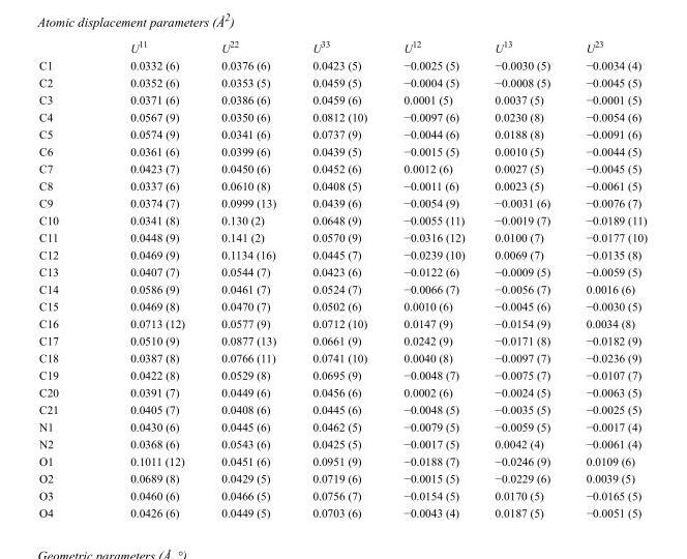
<table><thead><tr><td></td><td>U<sup>11</sup></td><td>U<sup>22</sup></td><td>U<sup>33</sup></td><td>U<sup>12</sup></td><td>U<sup>13</sup></td><td>U<sup>23</sup></td></tr></thead><tbody><tr><td>C1</td><td>0.0332 (6)</td><td>0.0376 (6)</td><td>0.0423 (5)</td><td>−0.0025 (5)</td><td>−0.0030 (5)</td><td>−0.0034 (4)</td></tr><tr><td>C2</td><td>0.0352 (6)</td><td>0.0353 (5)</td><td>0.0459 (5)</td><td>−0.0004 (5)</td><td>−0.0008 (5)</td><td>−0.0045 (5)</td></tr><tr><td>C3</td><td>0.0371 (6)</td><td>0.0386 (6)</td><td>0.0459 (6)</td><td>0.0001 (5)</td><td>0.0037 (5)</td><td>−0.0001 (5)</td></tr><tr><td>C4</td><td>0.0567 (9)</td><td>0.0350 (6)</td><td>0.0812 (10)</td><td>−0.0097 (6)</td><td>0.0230 (8)</td><td>−0.0054 (6)</td></tr><tr><td>C5</td><td>0.0574 (9)</td><td>0.0341 (6)</td><td>0.0737 (9)</td><td>−0.0044 (6)</td><td>0.0188 (8)</td><td>−0.0091 (6)</td></tr><tr><td>C6</td><td>0.0361 (6)</td><td>0.0399 (6)</td><td>0.0439 (5)</td><td>−0.0015 (5)</td><td>0.0010 (5)</td><td>−0.0044 (5)</td></tr><tr><td>C7</td><td>0.0423 (7)</td><td>0.0450 (6)</td><td>0.0452 (6)</td><td>0.0012 (6)</td><td>0.0027 (5)</td><td>−0.0045 (5)</td></tr><tr><td>C8</td><td>0.0337 (6)</td><td>0.0610 (8)</td><td>0.0408 (5)</td><td>−0.0011 (6)</td><td>0.0023 (5)</td><td>−0.0061 (5)</td></tr><tr><td>C9</td><td>0.0374 (7)</td><td>0.0999 (13)</td><td>0.0439 (6)</td><td>−0.0054 (9)</td><td>−0.0031 (6)</td><td>−0.0076 (7)</td></tr><tr><td>C10</td><td>0.0341 (8)</td><td>0.130 (2)</td><td>0.0648 (9)</td><td>−0.0055 (11)</td><td>−0.0019 (7)</td><td>−0.0189 (11)</td></tr><tr><td>C11</td><td>0.0448 (9)</td><td>0.141 (2)</td><td>0.0570 (9)</td><td>−0.0316 (12)</td><td>0.0100 (7)</td><td>−0.0177 (10)</td></tr><tr><td>C12</td><td>0.0469 (9)</td><td>0.1134 (16)</td><td>0.0445 (7)</td><td>−0.0239 (10)</td><td>0.0069 (7)</td><td>−0.0135 (8)</td></tr><tr><td>C13</td><td>0.0407 (7)</td><td>0.0544 (7)</td><td>0.0423 (6)</td><td>−0.0122 (6)</td><td>−0.0009 (5)</td><td>−0.0059 (5)</td></tr><tr><td>C14</td><td>0.0586 (9)</td><td>0.0461 (7)</td><td>0.0524 (7)</td><td>−0.0066 (7)</td><td>−0.0056 (7)</td><td>0.0016 (6)</td></tr><tr><td>C15</td><td>0.0469 (8)</td><td>0.0470 (7)</td><td>0.0502 (6)</td><td>0.0010 (6)</td><td>−0.0045 (6)</td><td>−0.0030 (5)</td></tr><tr><td>C16</td><td>0.0713 (12)</td><td>0.0577 (9)</td><td>0.0712 (10)</td><td>0.0147 (9)</td><td>−0.0154 (9)</td><td>0.0034 (8)</td></tr><tr><td>C17</td><td>0.0510 (9)</td><td>0.0877 (13)</td><td>0.0661 (9)</td><td>0.0242 (9)</td><td>−0.0171 (8)</td><td>−0.0182 (9)</td></tr><tr><td>C18</td><td>0.0387 (8)</td><td>0.0766 (11)</td><td>0.0741 (10)</td><td>0.0040 (8)</td><td>−0.0097 (7)</td><td>−0.0236 (9)</td></tr><tr><td>C19</td><td>0.0422 (8)</td><td>0.0529 (8)</td><td>0.0695 (9)</td><td>−0.0048 (7)</td><td>−0.0075 (7)</td><td>−0.0107 (7)</td></tr><tr><td>C20</td><td>0.0391 (7)</td><td>0.0449 (6)</td><td>0.0456 (6)</td><td>0.0002 (6)</td><td>−0.0024 (5)</td><td>−0.0063 (5)</td></tr><tr><td>C21</td><td>0.0405 (7)</td><td>0.0408 (6)</td><td>0.0445 (6)</td><td>−0.0048 (5)</td><td>−0.0035 (5)</td><td>−0.0025 (5)</td></tr><tr><td>N1</td><td>0.0430 (6)</td><td>0.0445 (6)</td><td>0.0462 (5)</td><td>−0.0079 (5)</td><td>−0.0059 (5)</td><td>−0.0017 (4)</td></tr><tr><td>N2</td><td>0.0368 (6)</td><td>0.0543 (6)</td><td>0.0425 (5)</td><td>−0.0017 (5)</td><td>0.0042 (4)</td><td>−0.0061 (4)</td></tr><tr><td>O1</td><td>0.1011 (12)</td><td>0.0451 (6)</td><td>0.0951 (9)</td><td>−0.0188 (7)</td><td>−0.0246 (9)</td><td>0.0109 (6)</td></tr><tr><td>O2</td><td>0.0689 (8)</td><td>0.0429 (5)</td><td>0.0719 (6)</td><td>−0.0015 (5)</td><td>−0.0229 (6)</td><td>0.0039 (5)</td></tr><tr><td>O3</td><td>0.0460 (6)</td><td>0.0466 (5)</td><td>0.0756 (7)</td><td>−0.0154 (5)</td><td>0.0170 (5)</td><td>−0.0165 (5)</td></tr><tr><td>O4</td><td>0.0426 (6)</td><td>0.0449 (5)</td><td>0.0703 (6)</td><td>−0.0043 (4)</td><td>0.0187 (5)</td><td>−0.0051 (5)</td></tr></tbody></table>